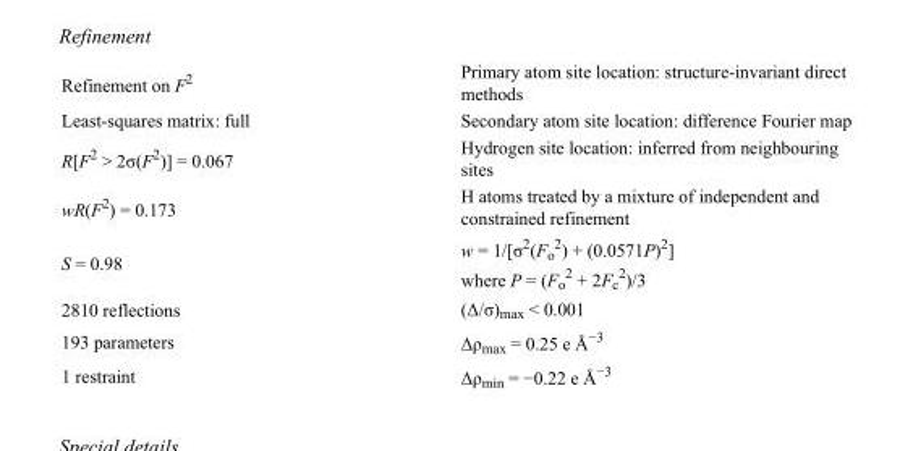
<table><tbody><tr><td>Refinement on F<sup>2</sup></td><td>Primary atom site location: structure-invariant direct methods</td></tr><tr><td>Least-squares matrix: full</td><td>Secondary atom site location: difference Fourier map</td></tr><tr><td>R[F<sup>2</sup> &gt; 2σ(F<sup>2</sup>)] = 0.067</td><td>Hydrogen site location: inferred from neighbouring sites</td></tr><tr><td>wR(F<sup>2</sup>) = 0.173</td><td>H atoms treated by a mixture of independent and constrained refinement</td></tr><tr><td>S = 0.98</td><td>w = 1/[σ<sup>2</sup>(F<sub>o</sub> <sup>2</sup>) + (0.0571P)<sup>2</sup>] where P = (F<sub>o</sub> <sup>2</sup> + 2F<sub>c</sub> <sup>2</sup>)/3</td></tr><tr><td>2810 reflections</td><td>(Δ/σ)<sub>max</sub> &lt; 0.001</td></tr><tr><td>193 parameters</td><td>Δρ<sub>max</sub> = 0.25 e Å<sup>−3</sup></td></tr><tr><td>1 restraint</td><td>Δρ<sub>min</sub> = −0.22 e Å<sup>−3</sup></td></tr></tbody></table>